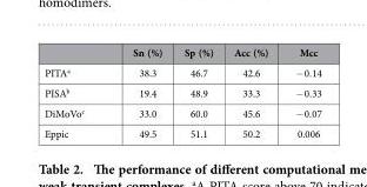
<table><thead><tr><td></td><td>Sn (%)</td><td>Sp (%)</td><td>Acc (%)</td><td>Mcc</td></tr></thead><tbody><tr><td>PITA<sup>a</sup></td><td>38.3</td><td>46.7</td><td>42.6</td><td>− 0.14</td></tr><tr><td>PISA<sup>b</sup></td><td>19.4</td><td>48.9</td><td>33.3</td><td>− 0.33</td></tr><tr><td>DiMoVo<sup>c</sup></td><td>33.0</td><td>60.0</td><td>45.6</td><td>− 0.07</td></tr><tr><td>Eppic</td><td>49.5</td><td>51.1</td><td>50.2</td><td>0.006</td></tr></tbody></table>